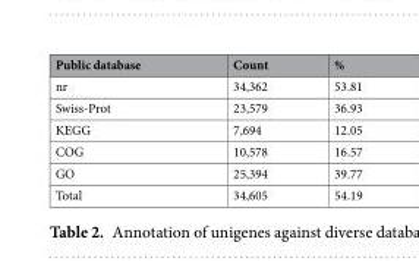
<table><thead><tr><td>Public database</td><td>Count</td><td>%</td></tr></thead><tbody><tr><td>nr</td><td>34,362</td><td>53.81</td></tr><tr><td>Swiss-Prot</td><td>23,579</td><td>36.93</td></tr><tr><td>KEGG</td><td>7,694</td><td>12.05</td></tr><tr><td>COG</td><td>10,578</td><td>16.57</td></tr><tr><td>GO</td><td>25,394</td><td>39.77</td></tr><tr><td>Total</td><td>34,605</td><td>54.19</td></tr></tbody></table>